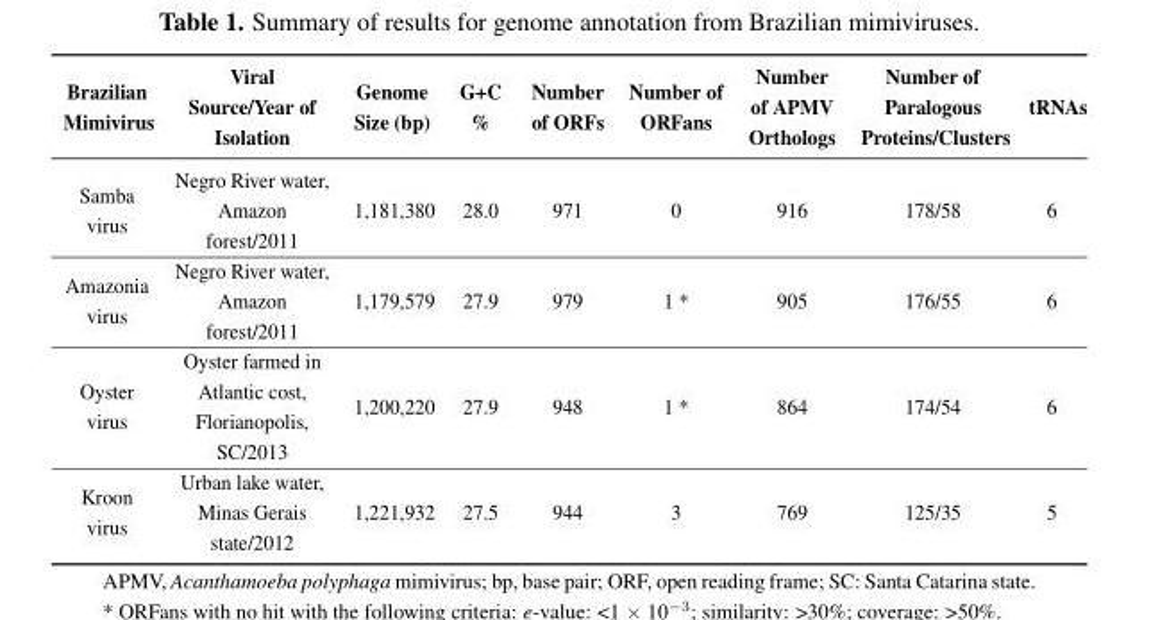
<table><thead><tr><td>Brazilian Mimivirus</td><td>Viral Source/Year of Isolation</td><td>Genome Size (bp)</td><td>G+C %</td><td>Number of ORFs</td><td>Number of ORFans</td><td>Number of APMV Orthologs</td><td>Number of Paralogous Proteins/Clusters</td><td>tRNAs</td></tr></thead><tbody><tr><td>Samba virus</td><td>Negro River water, Amazon forest/2011</td><td>1,181,380</td><td>28.0</td><td>971</td><td>0</td><td>916</td><td>178/58</td><td>6</td></tr><tr><td>Amazonia virus</td><td>Negro River water, Amazon forest/2011</td><td>1,179,579</td><td>27.9</td><td>979</td><td>1 *</td><td>905</td><td>176/55</td><td>6</td></tr><tr><td>Oyster virus</td><td>Oyster farmed in Atlantic cost, Florianopolis, SC/2013</td><td>1,200,220</td><td>27.9</td><td>948</td><td>1 *</td><td>864</td><td>174/54</td><td>6</td></tr><tr><td>Kroon virus</td><td>Urban lake water, Minas Gerais state/2012</td><td>1,221,932</td><td>27.5</td><td>944</td><td>3</td><td>769</td><td>125/35</td><td>5</td></tr></tbody></table>